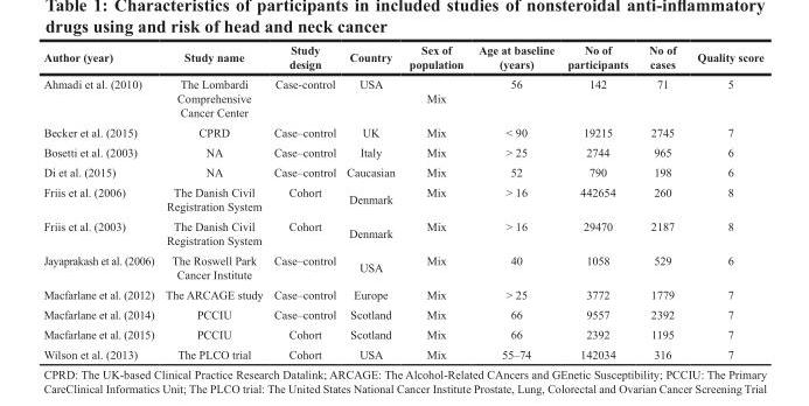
<table><thead><tr><td>Author (year)</td><td>Study name</td><td>Study design</td><td>Country</td><td>Sex of population</td><td>Age at baseline (years)</td><td>No of participants</td><td>No of cases</td><td>Quality score</td></tr></thead><tbody><tr><td>Ahmadi et al. (2010)</td><td>The Lombardi Comprehensive Cancer Center</td><td>Case-control</td><td>USA</td><td>Mix</td><td>56</td><td>142</td><td>71</td><td>5</td></tr><tr><td>Becker et al. (2015)</td><td>CPRD</td><td>Case–control</td><td>UK</td><td>Mix</td><td>&lt; 90</td><td>19215</td><td>2745</td><td>7</td></tr><tr><td>Bosetti et al. (2003)</td><td>NA</td><td>Case–control</td><td>Italy</td><td>Mix</td><td>&gt; 25</td><td>2744</td><td>965</td><td>6</td></tr><tr><td>Di et al. (2015)</td><td>NA</td><td>Case–control</td><td>Caucasian</td><td>Mix</td><td>52</td><td>790</td><td>198</td><td>6</td></tr><tr><td>Friis et al. (2006)</td><td>The Danish Civil Registration System</td><td>Cohort</td><td>Denmark</td><td>Mix</td><td>&gt; 16</td><td>442654</td><td>260</td><td>8</td></tr><tr><td>Friis et al. (2003)</td><td>The Danish Civil Registration System</td><td>Cohort</td><td>Denmark</td><td>Mix</td><td>&gt; 16</td><td>29470</td><td>2187</td><td>8</td></tr><tr><td>Jayaprakash et al. (2006)</td><td>The Roswell Park Cancer Institute</td><td>Case–control</td><td>USA</td><td>Mix</td><td>40</td><td>1058</td><td>529</td><td>6</td></tr><tr><td>Macfarlane et al. (2012)</td><td>The ARCAGE study</td><td>Case–control</td><td>Europe</td><td>Mix</td><td>&gt; 25</td><td>3772</td><td>1779</td><td>7</td></tr><tr><td>Macfarlane et al. (2014)</td><td>PCCIU</td><td>Case–control</td><td>Scotland</td><td>Mix</td><td>66</td><td>9557</td><td>2392</td><td>7</td></tr><tr><td>Macfarlane et al. (2015)</td><td>PCCIU</td><td>Cohort</td><td>Scotland</td><td>Mix</td><td>66</td><td>2392</td><td>1195</td><td>7</td></tr><tr><td>Wilson et al. (2013)</td><td>The PLCO trial</td><td>Cohort</td><td>USA</td><td>Mix</td><td>55–74</td><td>142034</td><td>316</td><td>7</td></tr></tbody></table>